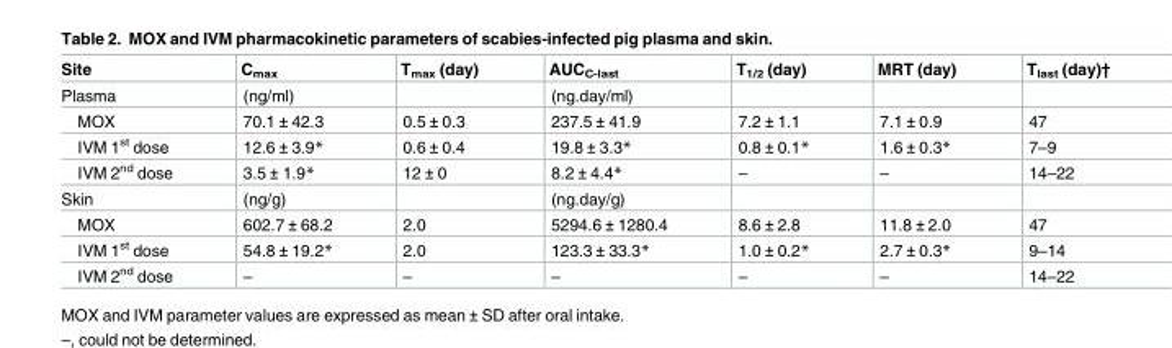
<table><thead><tr><td>Site</td><td>C<sub>max</sub></td><td>T<sub>max</sub> (day)</td><td>AUC<sub>C-last</sub></td><td>T<sub>1/2</sub> (day)</td><td>MRT (day)</td><td>T<sub>last</sub> (day)†</td></tr></thead><tbody><tr><td>Plasma</td><td>(ng/ml)</td><td></td><td>(ng.day/ml)</td><td></td><td></td><td></td></tr><tr><td>MOX</td><td>70.1 ± 42.3</td><td>0.5 ± 0.3</td><td>237.5 ± 41.9</td><td>7.2 ± 1.1</td><td>7.1 ± 0.9</td><td>47</td></tr><tr><td>IVM 1<sup>st</sup> dose</td><td>12.6 ± 3.9*</td><td>0.6 ± 0.4</td><td>19.8 ± 3.3*</td><td>0.8 ± 0.1*</td><td>1.6 ± 0.3*</td><td>7–9</td></tr><tr><td>IVM 2<sup>nd</sup> dose</td><td>3.5 ± 1.9*</td><td>12 ± 0</td><td>8.2 ± 4.4*</td><td>–</td><td>–</td><td>14–22</td></tr><tr><td>Skin</td><td>(ng/g)</td><td></td><td>(ng.day/g)</td><td></td><td></td><td></td></tr><tr><td>MOX</td><td>602.7 ± 68.2</td><td>2.0</td><td>5294.6 ± 1280.4</td><td>8.6 ± 2.8</td><td>11.8 ± 2.0</td><td>47</td></tr><tr><td>IVM 1<sup>st</sup> dose</td><td>54.8 ± 19.2*</td><td>2.0</td><td>123.3 ± 33.3*</td><td>1.0 ± 0.2*</td><td>2.7 ± 0.3*</td><td>9–14</td></tr><tr><td>IVM 2<sup>nd</sup> dose</td><td>–</td><td>–</td><td>–</td><td>–</td><td>–</td><td>14–22</td></tr></tbody></table>